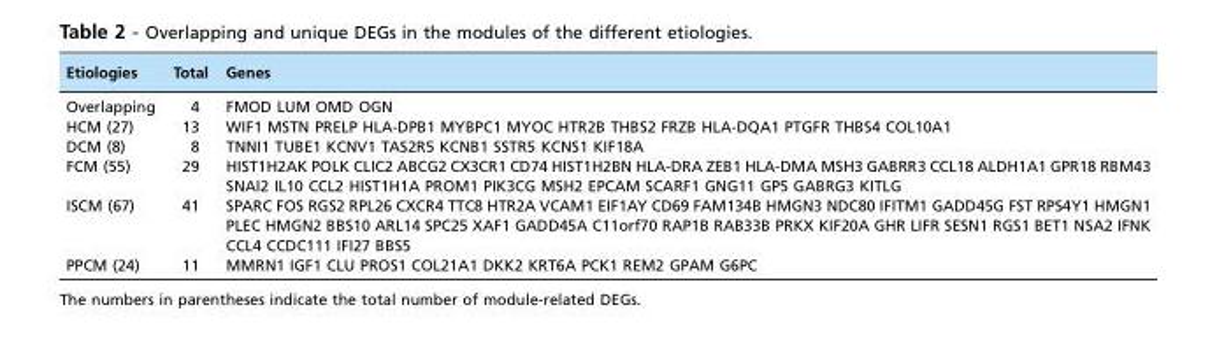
<table><thead><tr><td>Etiologies</td><td>Total</td><td>Genes</td></tr></thead><tbody><tr><td>Overlapping</td><td>4</td><td>FMOD LUM OMD OGN</td></tr><tr><td>HCM (27)</td><td>13</td><td>WIF1 MSTN PRELP HLA-DPB1 MYBPC1 MYOC HTR2B THBS2 FRZB HLA-DQA1 PTGFR THBS4 COL10A1</td></tr><tr><td>DCM (8)</td><td>8</td><td>TNNI1 TUBE1 KCNV1 TAS2R5 KCNB1 SSTR5 KCNS1 KIF18A</td></tr><tr><td>FCM (55)</td><td>29</td><td>HIST1H2AK POLK CLIC2 ABCG2 CX3CR1 CD74 HIST1H2BN HLA-DRA ZEB1 HLA-DMA MSH3 GABRR3 CCL18 ALDH1A1 GPR18 RBM43 SNAI2 IL10 CCL2 HIST1H1A PROM1 PIK3CG MSH2 EPCAM SCARF1 GNG11 GP5 GABRG3 KITLG</td></tr><tr><td>ISCM (67)</td><td>41</td><td>SPARC FOS RGS2 RPL26 CXCR4 TTC8 HTR2A VCAM1 EIF1AY CD69 FAM134B HMGN3 NDC80 IFITM1 GADD45G FST RPS4Y1 HMGN1 PLEC HMGN2 BBS10 ARL14 SPC25 XAF1 GADD45A C11orf70 RAP1B RAB33B PRKX KIF20A GHR LIFR SESN1 RGS1 BET1 NSA2 IFNK CCL4 CCDC111 IFI27 BBS5</td></tr><tr><td>PPCM (24)</td><td>11</td><td>MMRN1 IGF1 CLU PROS1 COL21A1 DKK2 KRT6A PCK1 REM2 GPAM G6PC</td></tr></tbody></table>